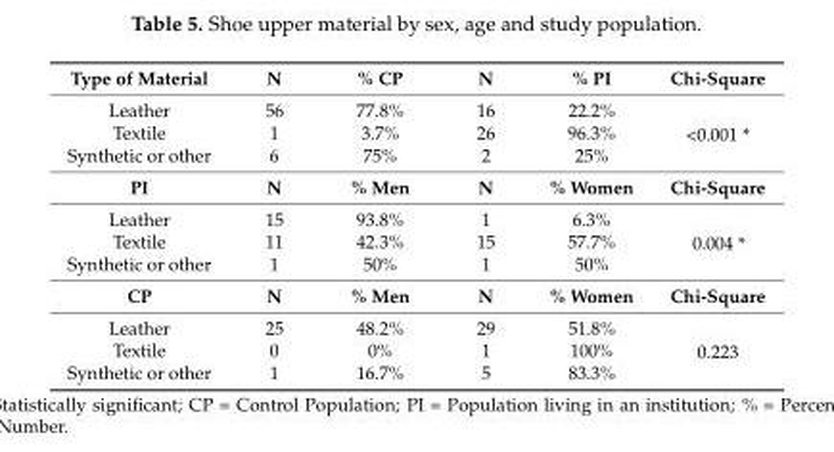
<table><thead><tr><td>Type of Material</td><td>N</td><td>% CP</td><td>N</td><td>% PI</td><td>Chi-Square</td></tr></thead><tbody><tr><td>Leather</td><td>56</td><td>77.8%</td><td>16</td><td>22.2%</td><td rowspan="3">&lt;0.001 *</td></tr><tr><td>Textile</td><td>1</td><td>3.7%</td><td>26</td><td>96.3%</td></tr><tr><td>Synthetic or other</td><td>6</td><td>75%</td><td>2</td><td>25%</td></tr><tr><td>PI</td><td>N</td><td>% Men</td><td>N</td><td>% Women</td><td>Chi-Square</td></tr><tr><td>Leather</td><td>15</td><td>93.8%</td><td>1</td><td>6.3%</td><td rowspan="3">0.004 *</td></tr><tr><td>Textile</td><td>11</td><td>42.3%</td><td>15</td><td>57.7%</td></tr><tr><td>Synthetic or other</td><td>1</td><td>50%</td><td>1</td><td>50%</td></tr><tr><td>CP</td><td>N</td><td>% Men</td><td>N</td><td>% Women</td><td>Chi-Square</td></tr><tr><td>Leather</td><td>25</td><td>48.2%</td><td>29</td><td>51.8%</td><td rowspan="3">0.223</td></tr><tr><td>Textile</td><td>0</td><td>0%</td><td>1</td><td>100%</td></tr><tr><td>Synthetic or other</td><td>1</td><td>16.7%</td><td>5</td><td>83.3%</td></tr></tbody></table>